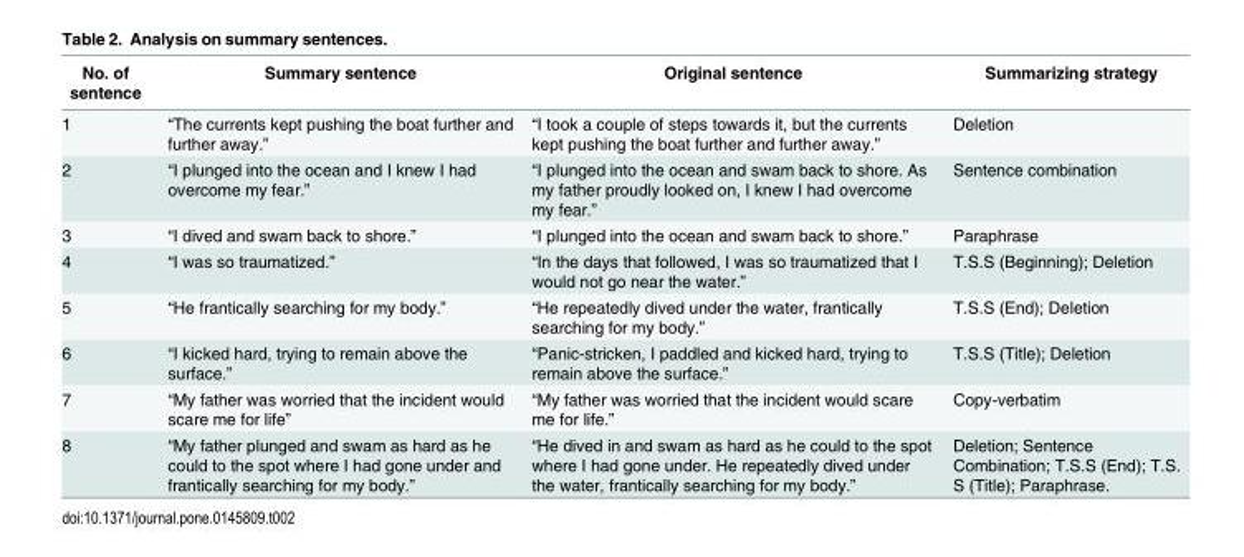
<table><thead><tr><td>No. of sentence</td><td>Summary sentence</td><td>Original sentence</td><td>Summarizing strategy</td></tr></thead><tbody><tr><td>1</td><td>“The currents kept pushing the boat further and further away.”</td><td>“I took a couple of steps towards it, but the currents kept pushing the boat further and further away.”</td><td>Deletion</td></tr><tr><td>2</td><td>“I plunged into the ocean and I knew I had overcome my fear.”</td><td>“I plunged into the ocean and swam back to shore. As my father proudly looked on, I knew I had overcome my fear.”</td><td>Sentence combination</td></tr><tr><td>3</td><td>“I dived and swam back to shore.”</td><td>“I plunged into the ocean and swam back to shore.”</td><td>Paraphrase</td></tr><tr><td>4</td><td>“I was so traumatized.”</td><td>“In the days that followed, I was so traumatized that I would not go near the water.”</td><td>T.S.S (Beginning); Deletion</td></tr><tr><td>5</td><td>“He frantically searching for my body.”</td><td>“He repeatedly dived under the water, frantically searching for my body.”</td><td>T.S.S (End); Deletion</td></tr><tr><td>6</td><td>“I kicked hard, trying to remain above the surface.”</td><td>“Panic-stricken, I paddled and kicked hard, trying to remain above the surface.”</td><td>T.S.S (Title); Deletion</td></tr><tr><td>7</td><td>“My father was worried that the incident would scare me for life”</td><td>“My father was worried that the incident would scare me for life.”</td><td>Copy-verbatim</td></tr><tr><td>8</td><td>“My father plunged and swam as hard as he could to the spot where I had gone under and frantically searching for my body.”</td><td>“He dived in and swam as hard as he could to the spot where I had gone under. He repeatedly dived under the water, frantically searching for my body.”</td><td>Deletion; Sentence Combination; T.S.S (End); T.S. S (Title); Paraphrase.</td></tr></tbody></table>